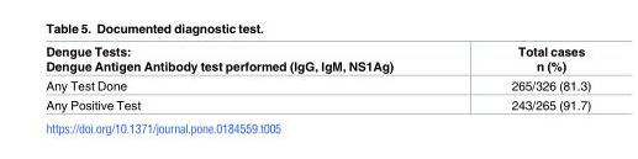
<table><thead><tr><td>Dengue Tests: Dengue Antigen Antibody test performed (IgG, IgM, NS1Ag)</td><td>Total cases n (%)</td></tr></thead><tbody><tr><td>Any Test Done</td><td>265/326 (81.3)</td></tr><tr><td>Any Positive Test</td><td>243/265 (91.7)</td></tr></tbody></table>